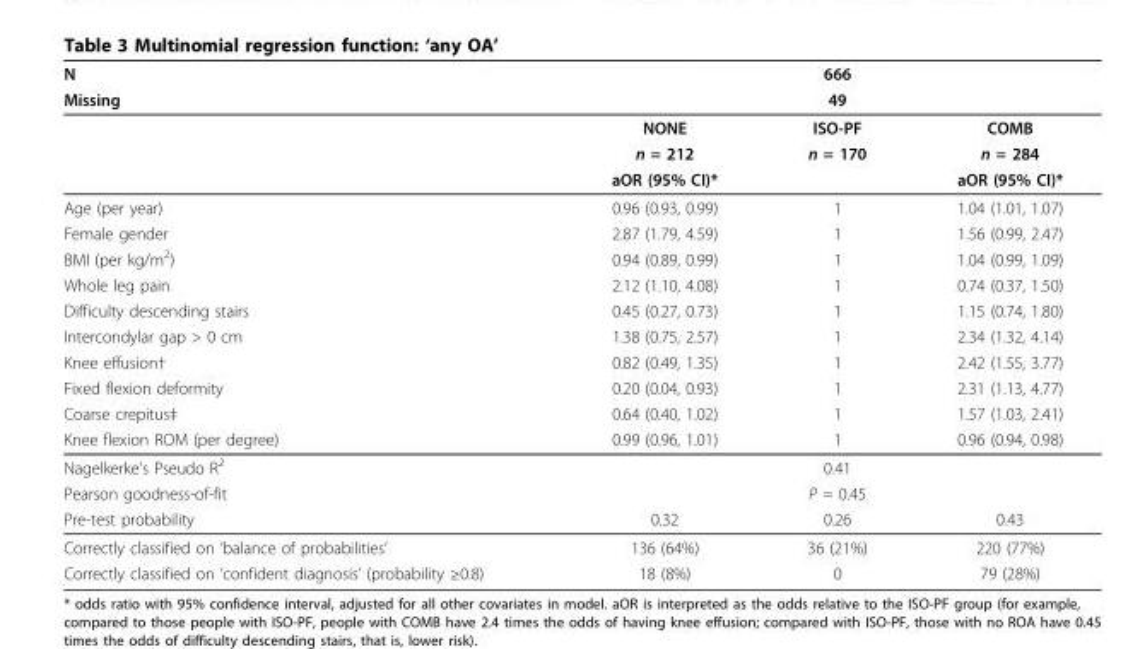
<table><thead><tr><td rowspan="3">N Missing</td><td rowspan="2" colspan="3">666 49</td></tr><tr></tr><tr><td>NONE</td><td>ISO-PF</td><td>COMB</td></tr></thead><tbody><tr><td></td><td>n = 212</td><td>n = 170</td><td>n = 284</td></tr><tr><td></td><td>aOR (95% CI)*</td><td></td><td>aOR (95% CI)*</td></tr><tr><td>Age (per year)</td><td>0.96 (0.93, 0.99)</td><td>1</td><td>1.04 (1.01, 1.07)</td></tr><tr><td>Female gender</td><td>2.87 (1.79, 4.59)</td><td>1</td><td>1.56 (0.99, 2.47)</td></tr><tr><td>BMI (per kg/m<sup>2</sup>)</td><td>0.94 (0.89, 0.99)</td><td>1</td><td>1.04 (0.99, 1.09)</td></tr><tr><td>Whole leg pain</td><td>2.12 (1.10, 4.08)</td><td>1</td><td>0.74 (0.37, 1.50)</td></tr><tr><td>Difficulty descending stairs</td><td>0.45 (0.27, 0.73)</td><td>1</td><td>1.15 (0.74, 1.80)</td></tr><tr><td>Intercondylar gap &gt; 0 cm</td><td>1.38 (0.75, 2.57)</td><td>1</td><td>2.34 (1.32, 4.14)</td></tr><tr><td>Knee effusion†</td><td>0.82 (0.49, 1.35)</td><td>1</td><td>2.42 (1.55, 3.77)</td></tr><tr><td>Fixed flexion deformity</td><td>0.20 (0.04, 0.93)</td><td>1</td><td>2.31 (1.13, 4.77)</td></tr><tr><td>Coarse crepitus‡</td><td>0.64 (0.40, 1.02)</td><td>1</td><td>1.57 (1.03, 2.41)</td></tr><tr><td>Knee flexion ROM (per degree)</td><td>0.99 (0.96, 1.01)</td><td>1</td><td>0.96 (0.94, 0.98)</td></tr><tr><td>Nagelkerke’s Pseudo R<sup>2</sup></td><td colspan="3">0.41</td></tr><tr><td>Pearson goodness-of-fit</td><td colspan="3">P = 0.45</td></tr><tr><td>Pre-test probability</td><td>0.32</td><td>0.26</td><td>0.43</td></tr><tr><td>Correctly classified on ‘balance of probabilities’</td><td>136 (64%)</td><td>36 (21%)</td><td>220 (77%)</td></tr><tr><td>Correctly classified on ‘confident diagnosis’ (probability ≥0.8)</td><td>18 (8%)</td><td>0</td><td>79 (28%)</td></tr></tbody></table>